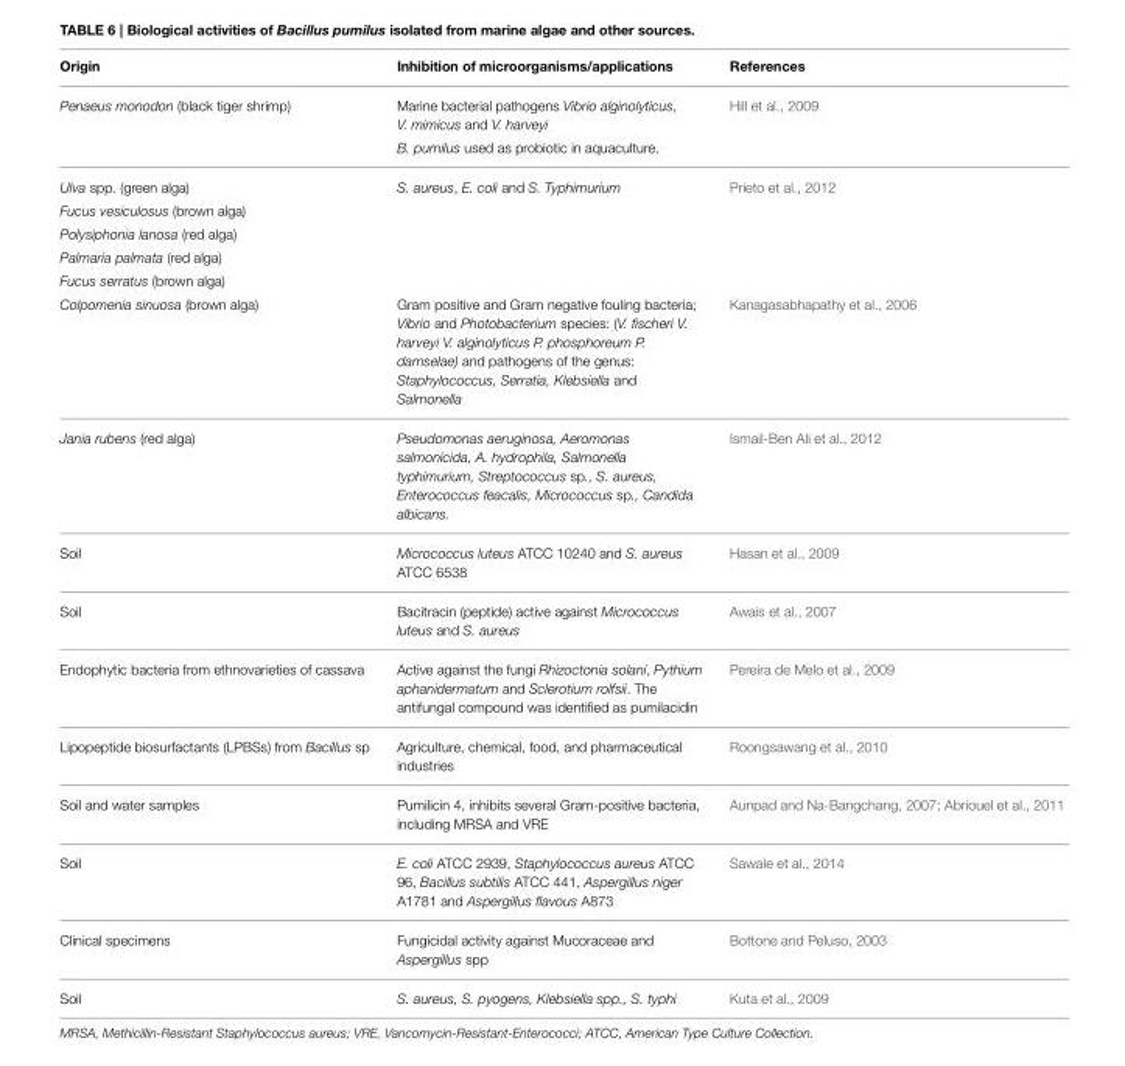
<table><thead><tr><td>Origin</td><td>Inhibition of microorganisms/applications</td><td>References</td></tr></thead><tbody><tr><td rowspan="2">Penaeus monodon (black tiger shrimp)</td><td>Marine bacterial pathogens Vibrio alginolyticus, V. mimicus and V. harveyi</td><td>Hill et al., 2009</td></tr><tr><td>B. pumilus used as probiotic in aquaculture.</td><td></td></tr><tr><td>Ulva spp. (green alga)</td><td>S. aureus, E. coli and S. Typhimurium</td><td>Prieto et al., 2012</td></tr><tr><td colspan="3">Fucus vesiculosus (brown alga)</td></tr><tr><td colspan="3">Polysiphonia lanosa (red alga)</td></tr><tr><td colspan="3">Palmaria palmata (red alga)</td></tr><tr><td colspan="3">Fucus serratus (brown alga)</td></tr><tr><td>Colpomenia sinuosa (brown alga)</td><td>Gram positive and Gram negative fouling bacteria; Vibrio and Photobacterium species: (V. fischeri V. harveyi V. alginolyticus P. phosphoreum P. damselae) and pathogens of the genus: Staphylococcus, Serratia, Klebsiella and Salmonella</td><td>Kanagasabhapathy et al., 2006</td></tr><tr><td>Jania rubens (red alga)</td><td>Pseudomonas aeruginosa, Aeromonas salmonicida, A. hydrophila, Salmonella typhimurium, Streptococcus sp., S. aureus, Enterococcus feacalis, Micrococcus sp., Candida albicans.</td><td>Ismail-Ben Ali et al., 2012</td></tr><tr><td>Soil</td><td>Micrococcus luteus ATCC 10240 and S. aureus ATCC 6538</td><td>Hasan et al., 2009</td></tr><tr><td>Soil</td><td>Bacitracin (peptide) active against Micrococcus luteus and S. aureus</td><td>Awais et al., 2007</td></tr><tr><td>Endophytic bacteria from ethnovarieties of cassava</td><td>Active against the fungi Rhizoctonia solani, Pythium aphanidermatum and Sclerotium rolfsii. The antifungal compound was identified as pumilacidin</td><td>Pereira de Melo et al., 2009</td></tr><tr><td>Lipopeptide biosurfactants (LPBSs) from Bacillus sp</td><td>Agriculture, chemical, food, and pharmaceutical industries</td><td>Roongsawang et al., 2010</td></tr><tr><td>Soil and water samples</td><td>Pumilicin 4, inhibits several Gram-positive bacteria, including MRSA and VRE</td><td>Aunpad and Na-Bangchang, 2007; Abriouel et al., 2011</td></tr><tr><td>Soil</td><td>E. coli ATCC 2939, Staphylococcus aureus ATCC 96, Bacillus subtilis ATCC 441, Aspergillus niger A1781 and Aspergillus flavous A873</td><td>Sawale et al., 2014</td></tr><tr><td>Clinical specimens</td><td>Fungicidal activity against Mucoraceae and Aspergillus spp</td><td>Bottone and Peluso, 2003</td></tr><tr><td>Soil</td><td>S. aureus, S. pyogens, Klebsiella spp., S. typhi</td><td>Kuta et al., 2009</td></tr></tbody></table>